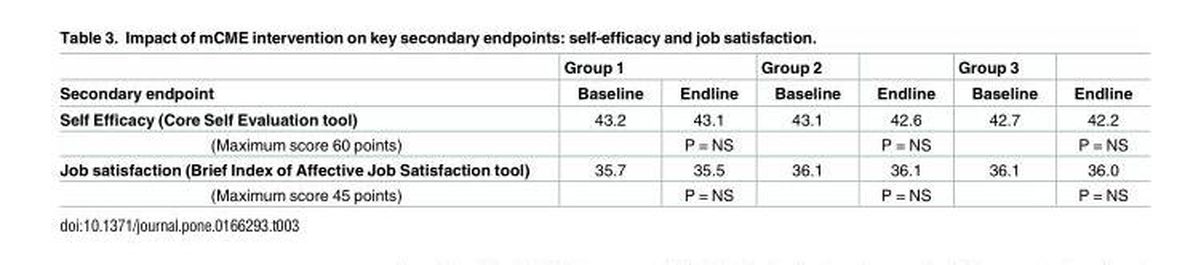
<table><thead><tr><td rowspan="2">Secondary endpoint</td><td colspan="2">Group 1</td><td rowspan="2">Group 2 Baseline</td><td rowspan="2">Endline</td><td rowspan="2">Group 3 Baseline</td><td rowspan="2">Endline</td></tr><tr><td>Baseline</td><td>Endline</td></tr></thead><tbody><tr><td>Self Efficacy (Core Self Evaluation tool)</td><td>43.2</td><td>43.1</td><td>43.1</td><td>42.6</td><td>42.7</td><td>42.2</td></tr><tr><td>(Maximum score 60 points)</td><td></td><td>P = NS</td><td></td><td>P = NS</td><td></td><td>P = NS</td></tr><tr><td>Job satisfaction (Brief Index of Affective Job Satisfaction tool)</td><td>35.7</td><td>35.5</td><td>36.1</td><td>36.1</td><td>36.1</td><td>36.0</td></tr><tr><td>(Maximum score 45 points)</td><td></td><td>P = NS</td><td></td><td>P = NS</td><td></td><td>P = NS</td></tr></tbody></table>